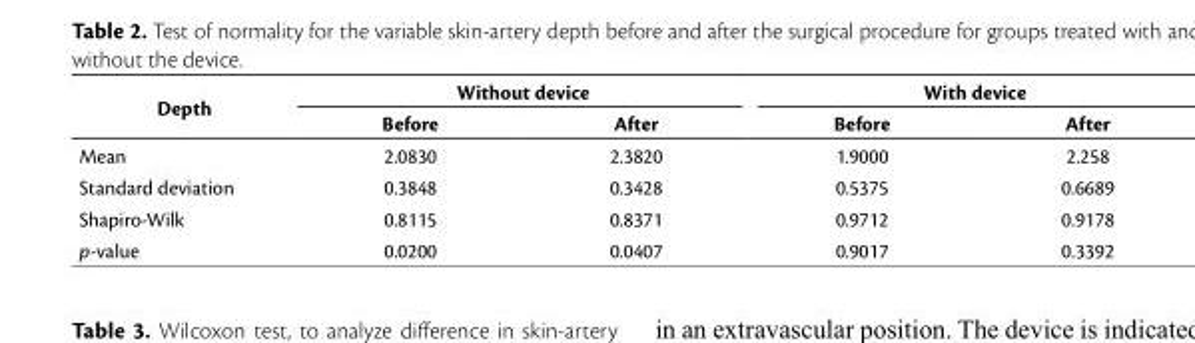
<table><thead><tr><td rowspan="2">Depth</td><td colspan="2">Without device</td><td colspan="2">With device</td></tr><tr><td>Before</td><td>After</td><td>Before</td><td>After</td></tr></thead><tbody><tr><td>Mean</td><td>2.0830</td><td>2.3820</td><td>1.9000</td><td>2.258</td></tr><tr><td>Standard deviation</td><td>0.3848</td><td>0.3428</td><td>0.5375</td><td>0.6689</td></tr><tr><td>Shapiro-Wilk</td><td>0.8115</td><td>0.8371</td><td>0.9712</td><td>0.9178</td></tr><tr><td>p-value</td><td>0.0200</td><td>0.0407</td><td>0.9017</td><td>0.3392</td></tr></tbody></table>